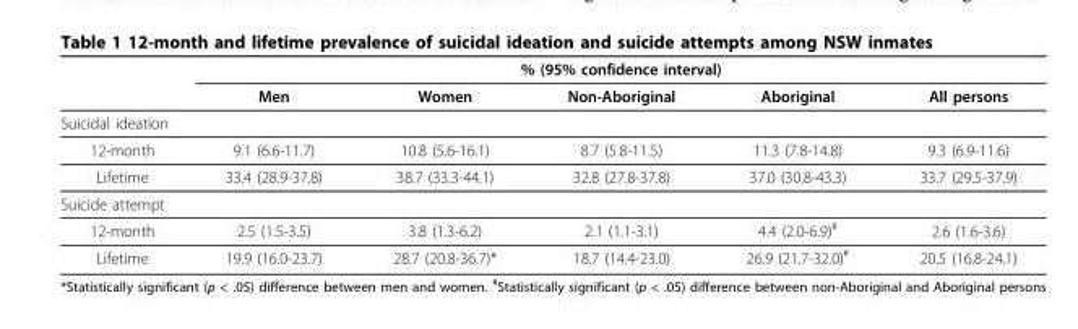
<table><thead><tr><td rowspan="2"></td><td colspan="5">% (95% confidence interval)</td></tr><tr><td>Men</td><td>Women</td><td>Non-Aboriginal</td><td>Aboriginal</td><td>All persons</td></tr></thead><tbody><tr><td colspan="6">Suicidal ideation</td></tr><tr><td>12-month</td><td>9.1 (6.6-11.7)</td><td>10.8 (5.6-16.1)</td><td>8.7 (5.8-11.5)</td><td>11.3 (7.8-14.8)</td><td>9.3 (6.9-11.6)</td></tr><tr><td>Lifetime</td><td>33.4 (28.9-37.8)</td><td>38.7 (33.3-44.1)</td><td>32.8 (27.8-37.8)</td><td>37.0 (30.8-43.3)</td><td>33.7 (29.5-37.9)</td></tr><tr><td colspan="6">Suicide attempt</td></tr><tr><td>12-month</td><td>2.5 (1.5-3.5)</td><td>3.8 (1.3-6.2)</td><td>2.1 (1.1-3.1)</td><td>4.4 (2.0-6.9)<sup>#</sup></td><td>2.6 (1.6-3.6)</td></tr><tr><td>Lifetime</td><td>19.9 (16.0-23.7)</td><td>28.7 (20.8-36.7)*</td><td>18.7 (14.4-23.0)</td><td>26.9 (21.7-32.0)<sup>#</sup></td><td>20.5 (16.8-24.1)</td></tr></tbody></table>